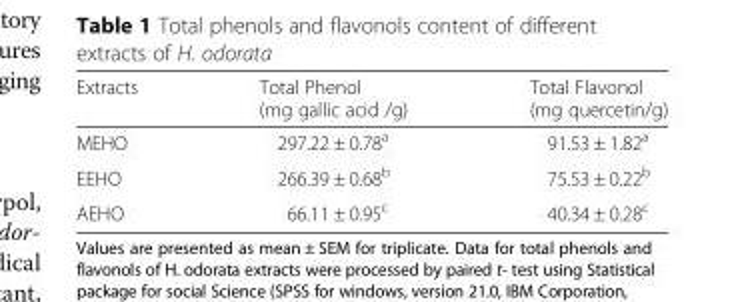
<table><thead><tr><td>Extracts</td><td>Total Phenol (mg gallic acid /g)</td><td>Total Flavonol (mg quercetin/g)</td></tr></thead><tbody><tr><td>MEHO</td><td>297.22 ± 0.78<sup>a</sup></td><td>91.53 ± 1.82<sup>a</sup></td></tr><tr><td>EEHO</td><td>266.39 ± 0.68<sup>b</sup></td><td>75.53 ± 0.22<sup>b</sup></td></tr><tr><td>AEHO</td><td>66.11 ± 0.95<sup>c</sup></td><td>40.34 ± 0.28<sup>c</sup></td></tr></tbody></table>